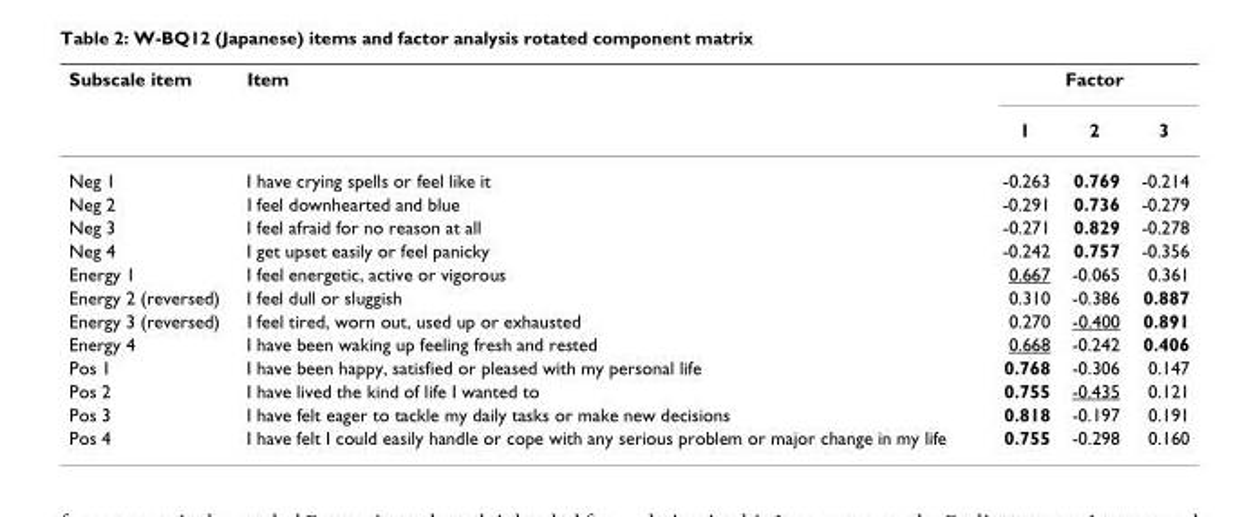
<table><thead><tr><td rowspan="2">Subscale item</td><td rowspan="2">Item</td><td colspan="3">Factor</td></tr><tr><td>1</td><td>2</td><td>3</td></tr></thead><tbody><tr><td>Neg 1</td><td>I have crying spells or feel like it</td><td>-0.263</td><td>0.769</td><td>-0.214</td></tr><tr><td>Neg 2</td><td>I feel downhearted and blue</td><td>-0.291</td><td>0.736</td><td>-0.279</td></tr><tr><td>Neg 3</td><td>I feel afraid for no reason at all</td><td>-0.271</td><td>0.829</td><td>-0.278</td></tr><tr><td>Neg 4</td><td>I get upset easily or feel panicky</td><td>-0.242</td><td>0.757</td><td>-0.356</td></tr><tr><td>Energy 1</td><td>I feel energetic, active or vigorous</td><td>0.667</td><td>-0.065</td><td>0.361</td></tr><tr><td>Energy 2 (reversed)</td><td>I feel dull or sluggish</td><td>0.310</td><td>-0.386</td><td>0.887</td></tr><tr><td>Energy 3 (reversed)</td><td>I feel tired, worn out, used up or exhausted</td><td>0.270</td><td>-0.400</td><td>0.891</td></tr><tr><td>Energy 4</td><td>I have been waking up feeling fresh and rested</td><td>0.668</td><td>-0.242</td><td>0.406</td></tr><tr><td>Pos 1</td><td>I have been happy, satisfied or pleased with my personal life</td><td>0.768</td><td>-0.306</td><td>0.147</td></tr><tr><td>Pos 2</td><td>I have lived the kind of life I wanted to</td><td>0.755</td><td>-0.435</td><td>0.121</td></tr><tr><td>Pos 3</td><td>I have felt eager to tackle my daily tasks or make new decisions</td><td>0.818</td><td>-0.197</td><td>0.191</td></tr><tr><td>Pos 4</td><td>I have felt I could easily handle or cope with any serious problem or major change in my life</td><td>0.755</td><td>-0.298</td><td>0.160</td></tr></tbody></table>